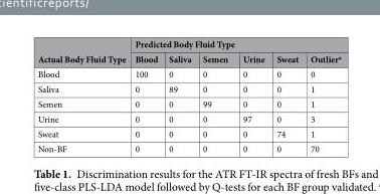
<table><thead><tr><td rowspan="2">Actual Body Fluid Type</td><td colspan="6">Predicted Body Fluid Type</td></tr><tr><td>Blood</td><td>Saliva</td><td>Semen</td><td>Urine</td><td>Sweat</td><td>Outlier<sup>a</sup></td></tr></thead><tbody><tr><td>Blood</td><td>100</td><td>0</td><td>0</td><td>0</td><td>0</td><td>0</td></tr><tr><td>Saliva</td><td>0</td><td>89</td><td>0</td><td>0</td><td>0</td><td>1</td></tr><tr><td>Semen</td><td>0</td><td>0</td><td>99</td><td>0</td><td>0</td><td>1</td></tr><tr><td>Urine</td><td>0</td><td>0</td><td>0</td><td>97</td><td>0</td><td>3</td></tr><tr><td>Sweat</td><td>0</td><td>0</td><td>0</td><td>0</td><td>74</td><td>1</td></tr><tr><td>Non-BF</td><td>0</td><td>0</td><td>0</td><td>0</td><td>0</td><td>70</td></tr></tbody></table>